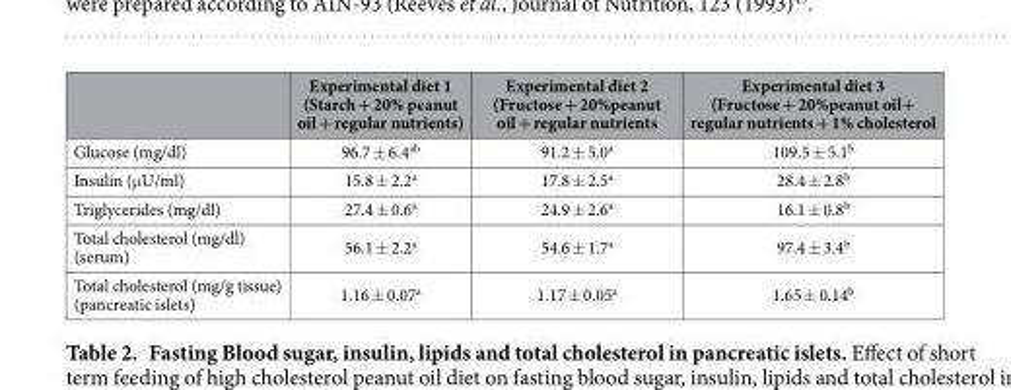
<table><thead><tr><td></td><td>Experimental diet 1 (Starch + 20% peanut oil + regular nutrients)</td><td>Experimental diet 2 (Fructose + 20%peanut oil + regular nutrients</td><td>Experimental diet 3 (Fructose + 20%peanut oil+ regular nutrients + 1% cholesterol</td></tr></thead><tbody><tr><td>Glucose (mg/dl)</td><td>96.7 ± 6.4<sup>ab</sup></td><td>91.2 ± 5.0<sup>a</sup></td><td>109.5 ± 5.1<sup>b</sup></td></tr><tr><td>Insulin (μ U/ml)</td><td>15.8 ± 2.2<sup>a</sup></td><td>17.8 ± 2.5<sup>a</sup></td><td>28.4 ± 2.8<sup>b</sup></td></tr><tr><td>Triglycerides (mg/dl)</td><td>27.4 ± 0.6<sup>a</sup></td><td>24.9 ± 2.6<sup>a</sup></td><td>16.1 ± 0.8<sup>b</sup></td></tr><tr><td>Total cholesterol (mg/dl) (serum)</td><td>56.1 ± 2.2<sup>a</sup></td><td>54.6 ± 1.7<sup>a</sup></td><td>97.4 ± 3.4<sup>b</sup></td></tr><tr><td>Total cholesterol (mg/g tissue) (pancreatic islets)</td><td>1.16 ± 0.07<sup>a</sup></td><td>1.17 ± 0.05<sup>a</sup></td><td>1.65 ± 0.14<sup>b</sup></td></tr></tbody></table>